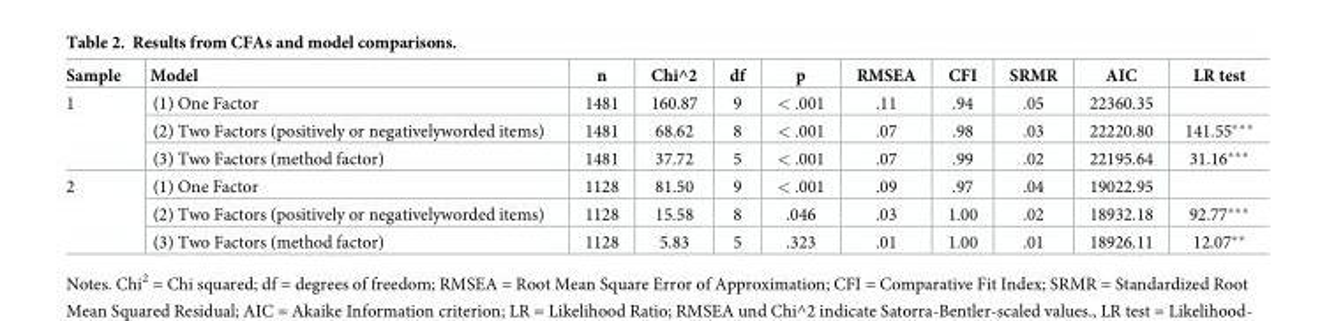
<table><thead><tr><td>Sample</td><td>Model</td><td>n</td><td>Chi^2</td><td>df</td><td>p</td><td>RMSEA</td><td>CFI</td><td>SRMR</td><td>AIC</td><td>LR test</td></tr></thead><tbody><tr><td rowspan="3">1</td><td>(1) One Factor</td><td>1481</td><td>160.87</td><td>9</td><td>&lt; .001</td><td>.11</td><td>.94</td><td>.05</td><td>22360.35</td><td></td></tr><tr><td>(2) Two Factors (positively or negativelyworded items)</td><td>1481</td><td>68.62</td><td>8</td><td>&lt; .001</td><td>.07</td><td>.98</td><td>.03</td><td>22220.80</td><td>141.55***</td></tr><tr><td>(3) Two Factors (method factor)</td><td>1481</td><td>37.72</td><td>5</td><td>&lt; .001</td><td>.07</td><td>.99</td><td>.02</td><td>22195.64</td><td>31.16***</td></tr><tr><td rowspan="3">2</td><td>(1) One Factor</td><td>1128</td><td>81.50</td><td>9</td><td>&lt; .001</td><td>.09</td><td>.97</td><td>.04</td><td>19022.95</td><td></td></tr><tr><td>(2) Two Factors (positively or negativelyworded items)</td><td>1128</td><td>15.58</td><td>8</td><td>.046</td><td>.03</td><td>1.00</td><td>.02</td><td>18932.18</td><td>92.77***</td></tr><tr><td>(3) Two Factors (method factor)</td><td>1128</td><td>5.83</td><td>5</td><td>.323</td><td>.01</td><td>1.00</td><td>.01</td><td>18926.11</td><td>12.07**</td></tr></tbody></table>